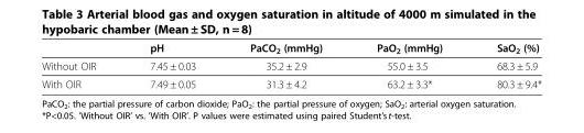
<table><thead><tr><td></td><td>pH</td><td>PaCO<sub>2</sub> (mmHg)</td><td>PaO<sub>2</sub> (mmHg)</td><td>SaO<sub>2</sub> (%)</td></tr></thead><tbody><tr><td>Without OIR</td><td>7.45 ± 0.03</td><td>35.2 ± 2.9</td><td>55.0 ± 3.5</td><td>68.3 ± 5.9</td></tr><tr><td>With OIR</td><td>7.49 ± 0.05</td><td>31.3 ± 4.2</td><td>63.2 ± 3.3*</td><td>80.3 ± 9.4*</td></tr></tbody></table>